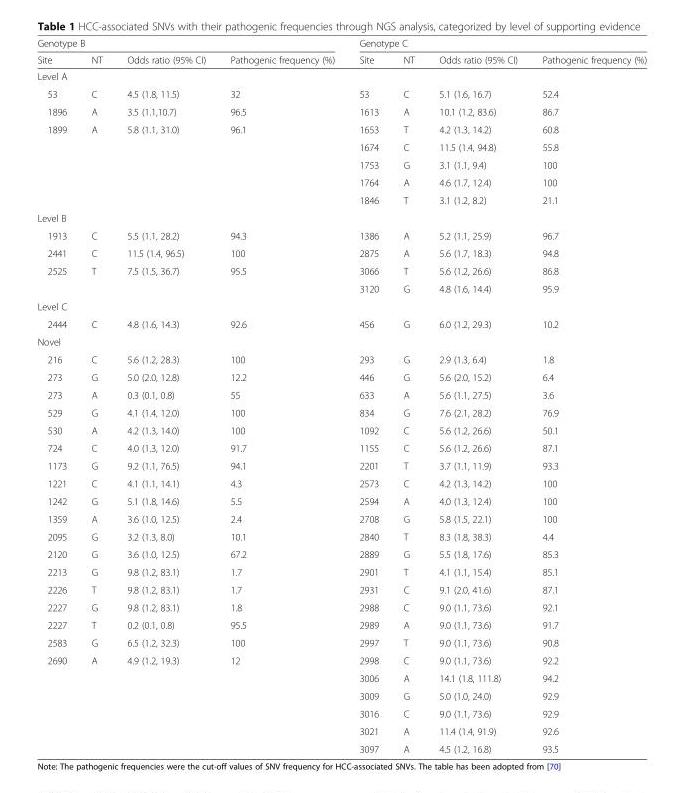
<table><thead><tr><td colspan="4">Genotype B</td><td colspan="4">Genotype C</td></tr><tr><td>Site</td><td>NT</td><td>Odds ratio (95% CI)</td><td>Pathogenic frequency (%)</td><td>Site</td><td>NT</td><td>Odds ratio (95% CI)</td><td>Pathogenic frequency (%)</td></tr></thead><tbody><tr><td colspan="8">Level A</td></tr><tr><td>53</td><td>C</td><td>4.5 (1.8, 11.5)</td><td>32</td><td>53</td><td>C</td><td>5.1 (1.6, 16.7)</td><td>52.4</td></tr><tr><td>1896</td><td>A</td><td>3.5 (1.1,10.7)</td><td>96.5</td><td>1613</td><td>A</td><td>10.1 (1.2, 83.6)</td><td>86.7</td></tr><tr><td rowspan="5">1899</td><td rowspan="5">A</td><td rowspan="5">5.8 (1.1, 31.0)</td><td rowspan="5">96.1</td><td>1653</td><td>T</td><td>4.2 (1.3, 14.2)</td><td>60.8</td></tr><tr><td>1674</td><td>C</td><td>11.5 (1.4, 94.8)</td><td>55.8</td></tr><tr><td>1753</td><td>G</td><td>3.1 (1.1, 9.4)</td><td>100</td></tr><tr><td>1764</td><td>A</td><td>4.6 (1.7, 12.4)</td><td>100</td></tr><tr><td>1846</td><td>T</td><td>3.1 (1.2, 8.2)</td><td>21.1</td></tr><tr><td colspan="8">Level B</td></tr><tr><td>1913</td><td>C</td><td>5.5 (1.1, 28.2)</td><td>94.3</td><td>1386</td><td>A</td><td>5.2 (1.1, 25.9)</td><td>96.7</td></tr><tr><td>2441</td><td>C</td><td>11.5 (1.4, 96.5)</td><td>100</td><td>2875</td><td>A</td><td>5.6 (1.7, 18.3)</td><td>94.8</td></tr><tr><td rowspan="2">2525</td><td rowspan="2">T</td><td rowspan="2">7.5 (1.5, 36.7)</td><td rowspan="2">95.5</td><td>3066</td><td>T</td><td>5.6 (1.2, 26.6)</td><td>86.8</td></tr><tr><td>3120</td><td>G</td><td>4.8 (1.6, 14.4)</td><td>95.9</td></tr><tr><td colspan="8">Level C</td></tr><tr><td>2444</td><td>C</td><td>4.8 (1.6, 14.3)</td><td>92.6</td><td>456</td><td>G</td><td>6.0 (1.2, 29.3)</td><td>10.2</td></tr><tr><td colspan="8">Novel</td></tr><tr><td>216</td><td>C</td><td>5.6 (1.2, 28.3)</td><td>100</td><td>293</td><td>G</td><td>2.9 (1.3, 6.4)</td><td>1.8</td></tr><tr><td>273</td><td>G</td><td>5.0 (2.0, 12.8)</td><td>12.2</td><td>446</td><td>G</td><td>5.6 (2.0, 15.2)</td><td>6.4</td></tr><tr><td>273</td><td>A</td><td>0.3 (0.1, 0.8)</td><td>55</td><td>633</td><td>A</td><td>5.6 (1.1, 27.5)</td><td>3.6</td></tr><tr><td>529</td><td>G</td><td>4.1 (1.4, 12.0)</td><td>100</td><td>834</td><td>G</td><td>7.6 (2.1, 28.2)</td><td>76.9</td></tr><tr><td>530</td><td>A</td><td>4.2 (1.3, 14.0)</td><td>100</td><td>1092</td><td>C</td><td>5.6 (1.2, 26.6)</td><td>50.1</td></tr><tr><td>724</td><td>C</td><td>4.0 (1.3, 12.0)</td><td>91.7</td><td>1155</td><td>C</td><td>5.6 (1.2, 26.6)</td><td>87.1</td></tr><tr><td>1173</td><td>G</td><td>9.2 (1.1, 76.5)</td><td>94.1</td><td>2201</td><td>T</td><td>3.7 (1.1, 11.9)</td><td>93.3</td></tr><tr><td>1221</td><td>C</td><td>4.1 (1.1, 14.1)</td><td>4.3</td><td>2573</td><td>C</td><td>4.2 (1.3, 14.2)</td><td>100</td></tr><tr><td>1242</td><td>G</td><td>5.1 (1.8, 14.6)</td><td>5.5</td><td>2594</td><td>A</td><td>4.0 (1.3, 12.4)</td><td>100</td></tr><tr><td>1359</td><td>A</td><td>3.6 (1.0, 12.5)</td><td>2.4</td><td>2708</td><td>G</td><td>5.8 (1.5, 22.1)</td><td>100</td></tr><tr><td>2095</td><td>G</td><td>3.2 (1.3, 8.0)</td><td>10.1</td><td>2840</td><td>T</td><td>8.3 (1.8, 38.3)</td><td>4.4</td></tr><tr><td>2120</td><td>G</td><td>3.6 (1.0, 12.5)</td><td>67.2</td><td>2889</td><td>G</td><td>5.5 (1.8, 17.6)</td><td>85.3</td></tr><tr><td>2213</td><td>G</td><td>9.8 (1.2, 83.1)</td><td>1.7</td><td>2901</td><td>T</td><td>4.1 (1.1, 15.4)</td><td>85.1</td></tr><tr><td>2226</td><td>T</td><td>9.8 (1.2, 83.1)</td><td>1.7</td><td>2931</td><td>C</td><td>9.1 (2.0, 41.6)</td><td>87.1</td></tr><tr><td>2227</td><td>G</td><td>9.8 (1.2, 83.1)</td><td>1.8</td><td>2988</td><td>C</td><td>9.0 (1.1, 73.6)</td><td>92.1</td></tr><tr><td>2227</td><td>T</td><td>0.2 (0.1, 0.8)</td><td>95.5</td><td>2989</td><td>A</td><td>9.0 (1.1, 73.6)</td><td>91.7</td></tr><tr><td>2583</td><td>G</td><td>6.5 (1.2, 32.3)</td><td>100</td><td>2997</td><td>T</td><td>9.0 (1.1, 73.6)</td><td>90.8</td></tr><tr><td rowspan="6">2690</td><td rowspan="6">A</td><td rowspan="6">4.9 (1.2, 19.3)</td><td rowspan="6">12</td><td>2998</td><td>C</td><td>9.0 (1.1, 73.6)</td><td>92.2</td></tr><tr><td>3006</td><td>A</td><td>14.1 (1.8, 111.8)</td><td>94.2</td></tr><tr><td>3009</td><td>G</td><td>5.0 (1.0, 24.0)</td><td>92.9</td></tr><tr><td>3016</td><td>C</td><td>9.0 (1.1, 73.6)</td><td>92.9</td></tr><tr><td>3021</td><td>A</td><td>11.4 (1.4, 91.9)</td><td>92.6</td></tr><tr><td>3097</td><td>A</td><td>4.5 (1.2, 16.8)</td><td>93.5</td></tr></tbody></table>